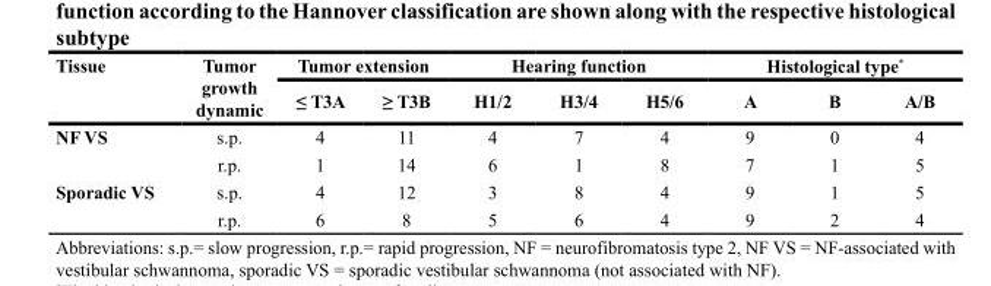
<table><thead><tr><td rowspan="2">Tissue</td><td rowspan="2">Tumor growth dynamic</td><td colspan="2">Tumor extension</td><td colspan="3">Hearing function</td><td colspan="3">Histological type*</td></tr><tr><td>≤ T3A</td><td>≥ T3B</td><td>H1/2</td><td>H3/4</td><td>H5/6</td><td>A</td><td>B</td><td>A/B</td></tr></thead><tbody><tr><td rowspan="2">NF VS</td><td>s.p.</td><td>4</td><td>11</td><td>4</td><td>7</td><td>4</td><td>9</td><td>0</td><td>4</td></tr><tr><td>r.p.</td><td>1</td><td>14</td><td>6</td><td>1</td><td>8</td><td>7</td><td>1</td><td>5</td></tr><tr><td rowspan="2">Sporadic VS</td><td>s.p.</td><td>4</td><td>12</td><td>3</td><td>8</td><td>4</td><td>9</td><td>1</td><td>5</td></tr><tr><td>r.p.</td><td>6</td><td>8</td><td>5</td><td>6</td><td>4</td><td>9</td><td>2</td><td>4</td></tr></tbody></table>